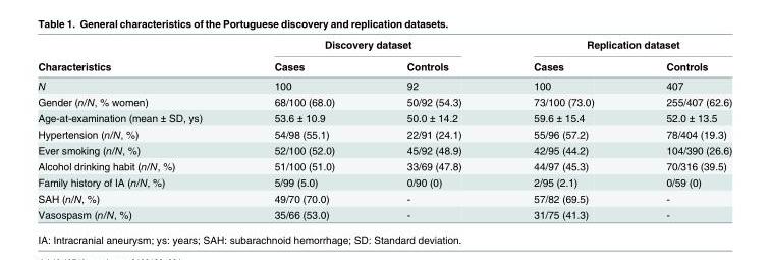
<table><thead><tr><td rowspan="2">Characteristics</td><td colspan="2">Discovery dataset</td><td colspan="2">Replication dataset</td></tr><tr><td>Cases</td><td>Controls</td><td>Cases</td><td>Controls</td></tr></thead><tbody><tr><td>N</td><td>100</td><td>92</td><td>100</td><td>407</td></tr><tr><td>Gender (n/N, % women)</td><td>68/100 (68.0)</td><td>50/92 (54.3)</td><td>73/100 (73.0)</td><td>255/407 (62.6)</td></tr><tr><td>Age-at-examination (mean ± SD, ys)</td><td>53.6 ± 10.9</td><td>50.0 ± 14.2</td><td>59.6 ± 15.4</td><td>52.0 ± 13.5</td></tr><tr><td>Hypertension (n/N, %)</td><td>54/98 (55.1)</td><td>22/91 (24.1)</td><td>55/96 (57.2)</td><td>78/404 (19.3)</td></tr><tr><td>Ever smoking (n/N, %)</td><td>52/100 (52.0)</td><td>45/92 (48.9)</td><td>42/95 (44.2)</td><td>104/390 (26.6)</td></tr><tr><td>Alcohol drinking habit (n/N, %)</td><td>51/100 (51.0)</td><td>33/69 (47.8)</td><td>44/97 (45.3)</td><td>70/316 (39.5)</td></tr><tr><td>Family history of IA (n/N, %)</td><td>5/99 (5.0)</td><td>0/90 (0)</td><td>2/95 (2.1)</td><td>0/59 (0)</td></tr><tr><td>SAH (n/N, %)</td><td>49/70 (70.0)</td><td>-</td><td>57/82 (69.5)</td><td>-</td></tr><tr><td>Vasospasm (n/N, %)</td><td>35/66 (53.0)</td><td>-</td><td>31/75 (41.3)</td><td>-</td></tr></tbody></table>